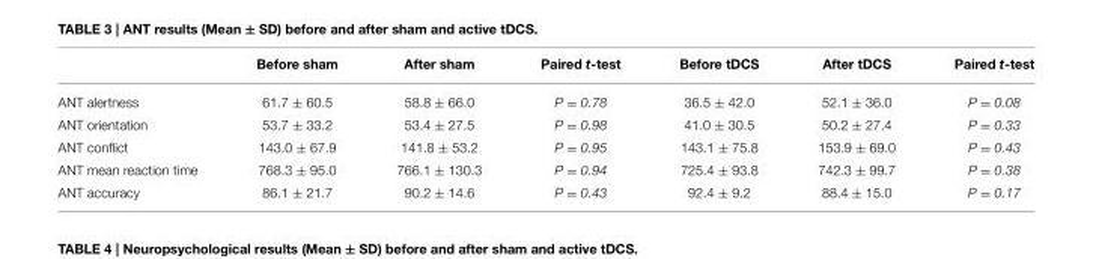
<table><thead><tr><td></td><td>Before sham</td><td>After sham</td><td>Paired t-test</td><td>Before tDCS</td><td>After tDCS</td><td>Paired t-test</td></tr></thead><tbody><tr><td>ANT alertness</td><td>61.7 ± 60.5</td><td>58.8 ± 66.0</td><td>P = 0.78</td><td>36.5 ± 42.0</td><td>52.1 ± 36.0</td><td>P = 0.08</td></tr><tr><td>ANT orientation</td><td>53.7 ± 33.2</td><td>53.4 ± 27.5</td><td>P = 0.98</td><td>41.0 ± 30.5</td><td>50.2 ± 27.4</td><td>P = 0.33</td></tr><tr><td>ANT conflict</td><td>143.0 ± 67.9</td><td>141.8 ± 53.2</td><td>P = 0.95</td><td>143.1 ± 75.8</td><td>153.9 ± 69.0</td><td>P = 0.43</td></tr><tr><td>ANT mean reaction time</td><td>768.3 ± 95.0</td><td>766.1 ± 130.3</td><td>P = 0.94</td><td>725.4 ± 93.8</td><td>742.3 ± 99.7</td><td>P = 0.38</td></tr><tr><td>ANT accuracy</td><td>86.1 ± 21.7</td><td>90.2 ± 14.6</td><td>P = 0.43</td><td>92.4 ± 9.2</td><td>88.4 ± 15.0</td><td>P = 0.17</td></tr></tbody></table>